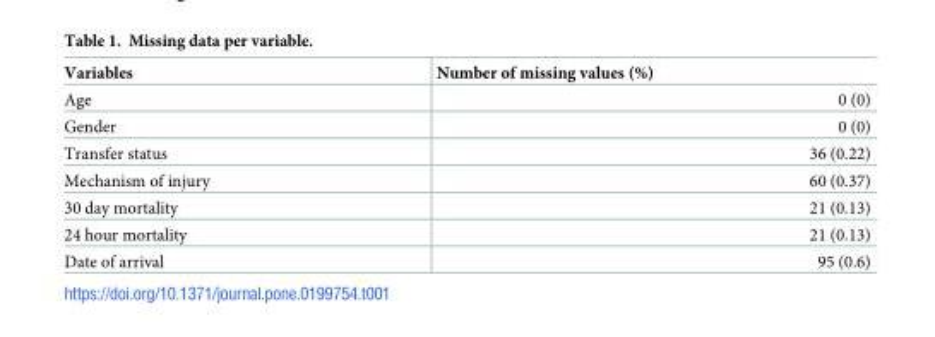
<table><thead><tr><td>Variables</td><td>Number of missing values (%)</td></tr></thead><tbody><tr><td>Age</td><td>0 (0)</td></tr><tr><td>Gender</td><td>0 (0)</td></tr><tr><td>Transfer status</td><td>36 (0.22)</td></tr><tr><td>Mechanism of injury</td><td>60 (0.37)</td></tr><tr><td>30 day mortality</td><td>21 (0.13)</td></tr><tr><td>24 hour mortality</td><td>21 (0.13)</td></tr><tr><td>Date of arrival</td><td>95 (0.6)</td></tr></tbody></table>